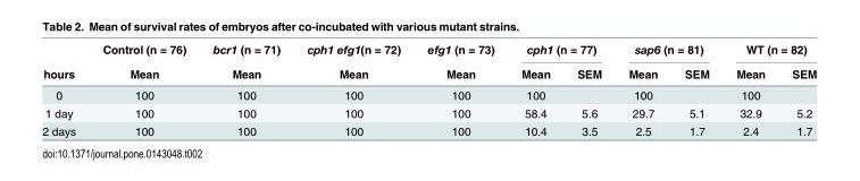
<table><thead><tr><td rowspan="2">hours</td><td rowspan="2">Control (n = 76) Mean</td><td rowspan="2">bcr1 (n = 71) Mean</td><td rowspan="2">cph1 efg1(n = 72) Mean</td><td rowspan="2">efg1 (n = 73) Mean</td><td colspan="2">cph1 (n = 77)</td><td colspan="2">sap6 (n = 81)</td><td colspan="2">WT (n = 82)</td></tr><tr><td>Mean</td><td>SEM</td><td>Mean</td><td>SEM</td><td>Mean</td><td>SEM</td></tr></thead><tbody><tr><td>0</td><td>100</td><td>100</td><td>100</td><td>100</td><td>100</td><td></td><td>100</td><td></td><td>100</td><td></td></tr><tr><td>1 day</td><td>100</td><td>100</td><td>100</td><td>100</td><td>58.4</td><td>5.6</td><td>29.7</td><td>5.1</td><td>32.9</td><td>5.2</td></tr><tr><td>2 days</td><td>100</td><td>100</td><td>100</td><td>100</td><td>10.4</td><td>3.5</td><td>2.5</td><td>1.7</td><td>2.4</td><td>1.7</td></tr></tbody></table>